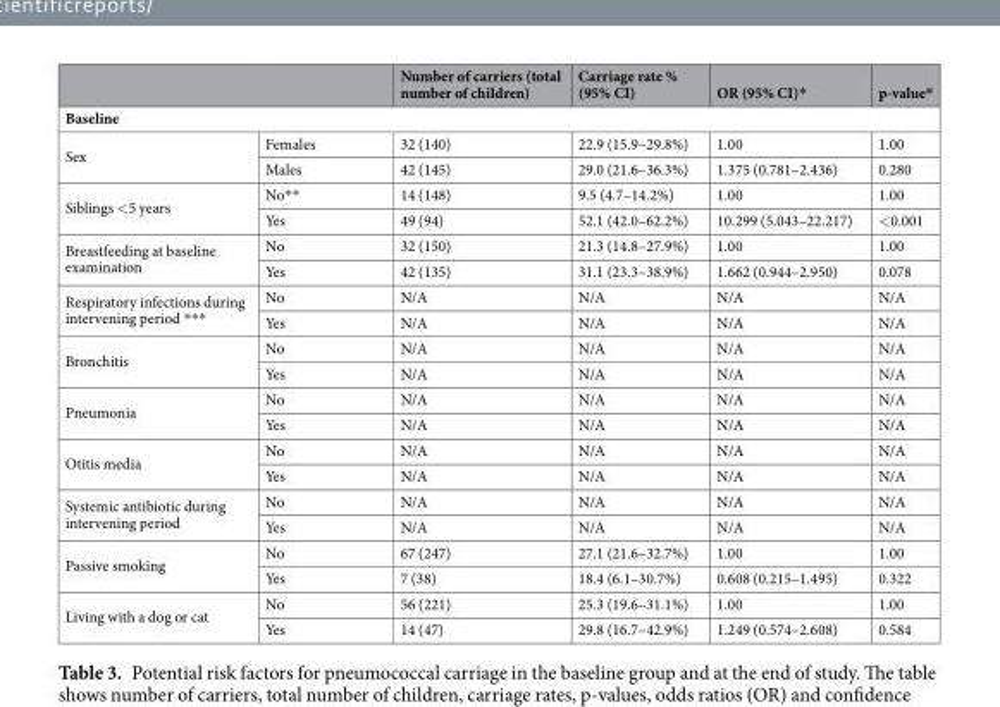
<table><thead><tr><td></td><td></td><td>Number of carriers (total number of children)</td><td>Carriage rate % (95% CI)</td><td>OR (95% CI)*</td><td>p-value*</td></tr></thead><tbody><tr><td colspan="6">Baseline</td></tr><tr><td rowspan="2">Sex</td><td>Females</td><td>32 (140)</td><td>22.9 (15.9–29.8%)</td><td>1.00</td><td>1.00</td></tr><tr><td>Males</td><td>42 (145)</td><td>29.0 (21.6–36.3%)</td><td>1.375 (0.781–2.436)</td><td>0.280</td></tr><tr><td rowspan="2">Siblings &lt;5 years</td><td>No**</td><td>14 (148)</td><td>9.5 (4.7–14.2%)</td><td>1.00</td><td>1.00</td></tr><tr><td>Yes</td><td>49 (94)</td><td>52.1 (42.0–62.2%)</td><td>10.299 (5.043–22.217)</td><td>&lt;0.001</td></tr><tr><td rowspan="2">Breastfeeding at baseline examination</td><td>No</td><td>32 (150)</td><td>21.3 (14.8–27.9%)</td><td>1.00</td><td>1.00</td></tr><tr><td>Yes</td><td>42 (135)</td><td>31.1 (23.3–38.9%)</td><td>1.662 (0.944–2.950)</td><td>0.078</td></tr><tr><td rowspan="2">Respiratory infections during intervening period ***</td><td>No</td><td>N/A</td><td>N/A</td><td>N/A</td><td>N/A</td></tr><tr><td>Yes</td><td>N/A</td><td>N/A</td><td>N/A</td><td>N/A</td></tr><tr><td rowspan="2">Bronchitis</td><td>No</td><td>N/A</td><td>N/A</td><td>N/A</td><td>N/A</td></tr><tr><td>Yes</td><td>N/A</td><td>N/A</td><td>N/A</td><td>N/A</td></tr><tr><td rowspan="2">Pneumonia</td><td>No</td><td>N/A</td><td>N/A</td><td>N/A</td><td>N/A</td></tr><tr><td>Yes</td><td>N/A</td><td>N/A</td><td>N/A</td><td>N/A</td></tr><tr><td rowspan="2">Otitis media</td><td>No</td><td>N/A</td><td>N/A</td><td>N/A</td><td>N/A</td></tr><tr><td>Yes</td><td>N/A</td><td>N/A</td><td>N/A</td><td>N/A</td></tr><tr><td rowspan="2">Systemic antibiotic during intervening period</td><td>No</td><td>N/A</td><td>N/A</td><td>N/A</td><td>N/A</td></tr><tr><td>Yes</td><td>N/A</td><td>N/A</td><td>N/A</td><td>N/A</td></tr><tr><td rowspan="2">Passive smoking</td><td>No</td><td>67 (247)</td><td>27.1 (21.6–32.7%)</td><td>1.00</td><td>1.00</td></tr><tr><td>Yes</td><td>7 (38)</td><td>18.4 (6.1–30.7%)</td><td>0.608 (0.215–1.495)</td><td>0.322</td></tr><tr><td rowspan="2">Living with a dog or cat</td><td>No</td><td>56 (221)</td><td>25.3 (19.6–31.1%)</td><td>1.00</td><td>1.00</td></tr><tr><td>Yes</td><td>14 (47)</td><td>29.8 (16.7–42.9%)</td><td>1.249 (0.574–2.608)</td><td>0.584</td></tr></tbody></table>